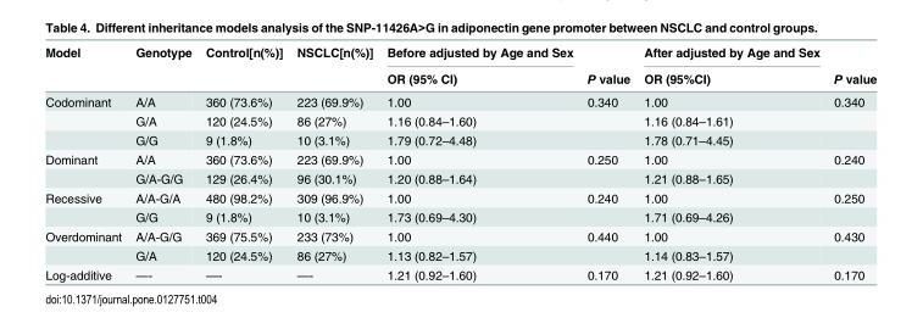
<table><thead><tr><td rowspan="2">Model</td><td rowspan="2">Genotype</td><td rowspan="2">Control[n(%)]</td><td rowspan="2">NSCLC[n(%)]</td><td rowspan="2">Before adjusted by Age and Sex OR (95% CI)</td><td rowspan="2">P value</td><td rowspan="2">After adjusted by Age and Sex OR (95%CI)</td><td rowspan="2">P value</td></tr><tr></tr></thead><tbody><tr><td rowspan="3">Codominant</td><td>A/A</td><td>360 (73.6%)</td><td>223 (69.9%)</td><td>1.00</td><td>0.340</td><td>1.00</td><td>0.340</td></tr><tr><td>G/A</td><td>120 (24.5%)</td><td>86 (27%)</td><td>1.16 (0.84–1.60)</td><td></td><td>1.16 (0.84–1.61)</td><td></td></tr><tr><td>G/G</td><td>9 (1.8%)</td><td>10 (3.1%)</td><td>1.79 (0.72–4.48)</td><td></td><td>1.78 (0.71–4.45)</td><td></td></tr><tr><td rowspan="2">Dominant</td><td>A/A</td><td>360 (73.6%)</td><td>223 (69.9%)</td><td>1.00</td><td>0.250</td><td>1.00</td><td>0.240</td></tr><tr><td>G/A-G/G</td><td>129 (26.4%)</td><td>96 (30.1%)</td><td>1.20 (0.88–1.64)</td><td></td><td>1.21 (0.88–1.65)</td><td></td></tr><tr><td rowspan="2">Recessive</td><td>A/A-G/A</td><td>480 (98.2%)</td><td>309 (96.9%)</td><td>1.00</td><td>0.240</td><td>1.00</td><td>0.250</td></tr><tr><td>G/G</td><td>9 (1.8%)</td><td>10 (3.1%)</td><td>1.73 (0.69–4.30)</td><td></td><td>1.71 (0.69–4.26)</td><td></td></tr><tr><td rowspan="2">Overdominant</td><td>A/A-G/G</td><td>369 (75.5%)</td><td>233 (73%)</td><td>1.00</td><td>0.440</td><td>1.00</td><td>0.430</td></tr><tr><td>G/A</td><td>120 (24.5%)</td><td>86 (27%)</td><td>1.13 (0.82–1.57)</td><td></td><td>1.14 (0.83–1.57)</td><td></td></tr><tr><td>Log-additive</td><td>—-</td><td>—-</td><td>—-</td><td>1.21 (0.92–1.60)</td><td>0.170</td><td>1.21 (0.92–1.60)</td><td>0.170</td></tr></tbody></table>